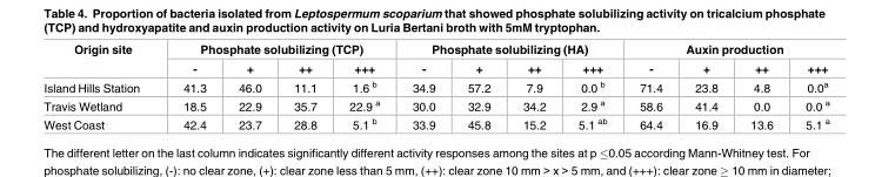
<table><thead><tr><td rowspan="2">Origin site</td><td colspan="4">Phosphate solubilizing (TCP)</td><td colspan="4">Phosphate solubilizing (HA)</td><td colspan="4">Auxin production</td></tr><tr><td>-</td><td>+</td><td>++</td><td>+++</td><td>-</td><td>+</td><td>++</td><td>+++</td><td>-</td><td>+</td><td>++</td><td>+++</td></tr></thead><tbody><tr><td>Island Hills Station</td><td>41.3</td><td>46.0</td><td>11.1</td><td>1.6 <sup>b</sup></td><td>34.9</td><td>57.2</td><td>7.9</td><td>0.0 <sup>b</sup></td><td>71.4</td><td>23.8</td><td>4.8</td><td>0.0<sup>a</sup></td></tr><tr><td>Travis Wetland</td><td>18.5</td><td>22.9</td><td>35.7</td><td>22.9 <sup>a</sup></td><td>30.0</td><td>32.9</td><td>34.2</td><td>2.9 <sup>a</sup></td><td>58.6</td><td>41.4</td><td>0.0</td><td>0.0 <sup>a</sup></td></tr><tr><td>West Coast</td><td>42.4</td><td>23.7</td><td>28.8</td><td>5.1 <sup>b</sup></td><td>33.9</td><td>45.8</td><td>15.2</td><td>5.1 <sup>ab</sup></td><td>64.4</td><td>16.9</td><td>13.6</td><td>5.1 <sup>a</sup></td></tr></tbody></table>